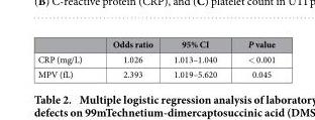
<table><thead><tr><td></td><td>Odds ratio</td><td>95% CI</td><td>P value</td></tr></thead><tbody><tr><td>CRP (mg/L)</td><td>1.026</td><td>1.013–1.040</td><td>&lt; 0.001</td></tr><tr><td>MPV (fL)</td><td>2.393</td><td>1.019–5.620</td><td>0.045</td></tr></tbody></table>